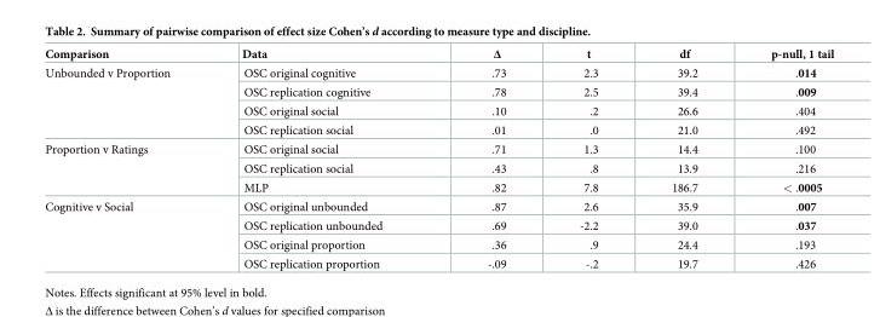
<table><thead><tr><td>Comparison</td><td>Data</td><td>Δ</td><td>t</td><td>df</td><td>p-null, 1 tail</td></tr></thead><tbody><tr><td rowspan="4">Unbounded v Proportion</td><td>OSC original cognitive</td><td>.73</td><td>2.3</td><td>39.2</td><td>.014</td></tr><tr><td>OSC replication cognitive</td><td>.78</td><td>2.5</td><td>39.4</td><td>.009</td></tr><tr><td>OSC original social</td><td>.10</td><td>.2</td><td>26.6</td><td>.404</td></tr><tr><td>OSC replication social</td><td>.01</td><td>.0</td><td>21.0</td><td>.492</td></tr><tr><td rowspan="3">Proportion v Ratings</td><td>OSC original social</td><td>.71</td><td>1.3</td><td>14.4</td><td>.100</td></tr><tr><td>OSC replication social</td><td>.43</td><td>.8</td><td>13.9</td><td>.216</td></tr><tr><td>MLP</td><td>.82</td><td>7.8</td><td>186.7</td><td>&lt; .0005</td></tr><tr><td rowspan="4">Cognitive v Social</td><td>OSC original unbounded</td><td>.87</td><td>2.6</td><td>35.9</td><td>.007</td></tr><tr><td>OSC replication unbounded</td><td>.69</td><td>-2.2</td><td>39.0</td><td>.037</td></tr><tr><td>OSC original proportion</td><td>.36</td><td>.9</td><td>24.4</td><td>.193</td></tr><tr><td>OSC replication proportion</td><td>-.09</td><td>-.2</td><td>19.7</td><td>.426</td></tr></tbody></table>